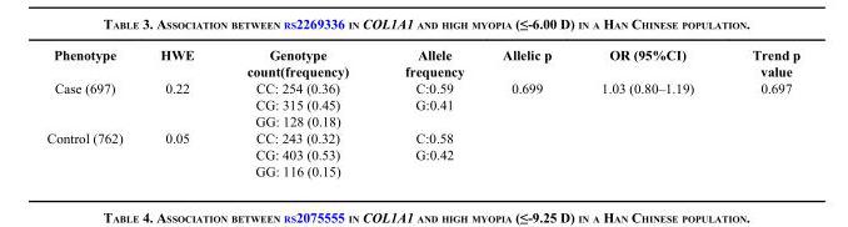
<table><thead><tr><td>Phenotype</td><td>HWE</td><td>Genotype count(frequency)</td><td>Allele frequency</td><td>Allelic p</td><td>OR (95%CI)</td><td>Trend p value</td></tr></thead><tbody><tr><td rowspan="3">Case (697)</td><td>0.22</td><td>CC: 254 (0.36)</td><td>C:0.59</td><td>0.699</td><td>1.03 (0.80–1.19)</td><td>0.697</td></tr><tr><td></td><td>CG: 315 (0.45)</td><td>G:0.41</td><td></td><td></td><td></td></tr><tr><td></td><td>GG: 128 (0.18)</td><td></td><td></td><td></td><td></td></tr><tr><td rowspan="3">Control (762)</td><td>0.05</td><td>CC: 243 (0.32)</td><td>C:0.58</td><td></td><td></td><td></td></tr><tr><td></td><td>CG: 403 (0.53)</td><td>G:0.42</td><td></td><td></td><td></td></tr><tr><td></td><td>GG: 116 (0.15)</td><td></td><td></td><td></td><td></td></tr></tbody></table>